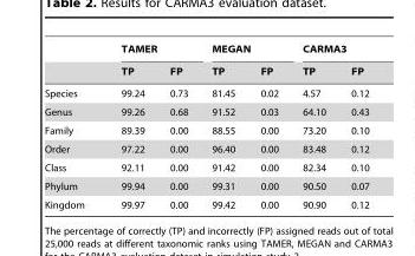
<table><thead><tr><td rowspan="2"></td><td colspan="2">TAMER</td><td colspan="2">MEGAN</td><td colspan="2">CARMA3</td></tr><tr><td>TP</td><td>FP</td><td>TP</td><td>FP</td><td>TP</td><td>FP</td></tr></thead><tbody><tr><td>Species</td><td>99.24</td><td>0.73</td><td>81.45</td><td>0.02</td><td>4.57</td><td>0.12</td></tr><tr><td>Genus</td><td>99.26</td><td>0.68</td><td>91.52</td><td>0.03</td><td>64.10</td><td>0.43</td></tr><tr><td>Family</td><td>89.39</td><td>0.00</td><td>88.55</td><td>0.00</td><td>73.20</td><td>0.10</td></tr><tr><td>Order</td><td>97.22</td><td>0.00</td><td>96.40</td><td>0.00</td><td>83.48</td><td>0.12</td></tr><tr><td>Class</td><td>92.11</td><td>0.00</td><td>91.42</td><td>0.00</td><td>82.34</td><td>0.10</td></tr><tr><td>Phylum</td><td>99.94</td><td>0.00</td><td>99.31</td><td>0.00</td><td>90.50</td><td>0.07</td></tr><tr><td>Kingdom</td><td>99.97</td><td>0.00</td><td>99.42</td><td>0.00</td><td>90.90</td><td>0.12</td></tr></tbody></table>